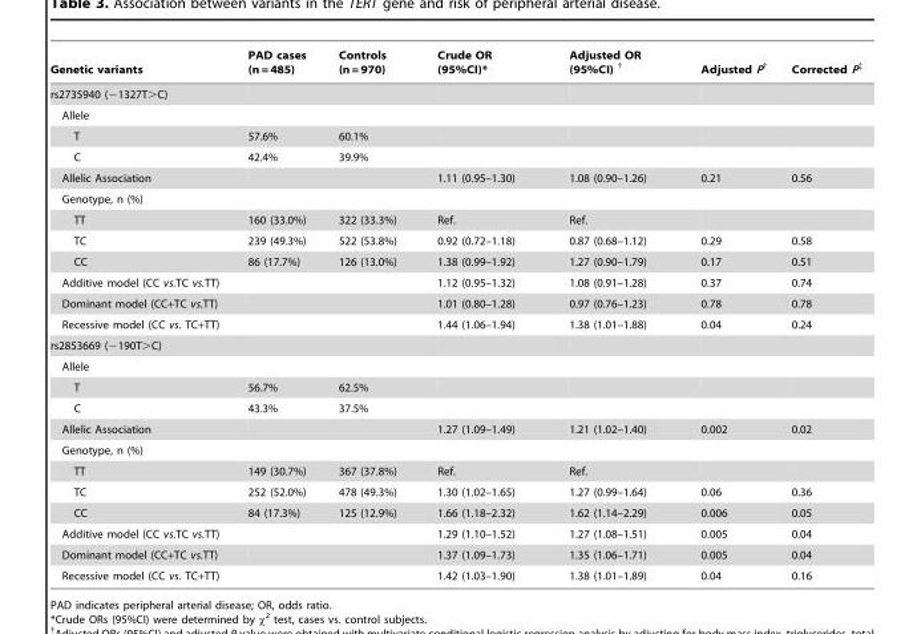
<table><thead><tr><td>Genetic variants</td><td>PAD cases (n = 485)</td><td>Controls (n = 970)</td><td>Crude OR (95%CI)*</td><td>Adjusted OR (95%CI) †</td><td>Adjusted P†</td><td>Corrected P‡</td></tr></thead><tbody><tr><td colspan="7">rs2735940 (−1327T&gt;C)</td></tr><tr><td colspan="7">Allele</td></tr><tr><td>T</td><td>57.6%</td><td>60.1%</td><td></td><td></td><td></td><td></td></tr><tr><td>C</td><td>42.4%</td><td>39.9%</td><td></td><td></td><td></td><td></td></tr><tr><td>Allelic Association</td><td></td><td></td><td>1.11 (0.95–1.30)</td><td>1.08 (0.90–1.26)</td><td>0.21</td><td>0.56</td></tr><tr><td colspan="7">Genotype, n (%)</td></tr><tr><td>TT</td><td>160 (33.0%)</td><td>322 (33.3%)</td><td>Ref.</td><td>Ref.</td><td></td><td></td></tr><tr><td>TC</td><td>239 (49.3%)</td><td>522 (53.8%)</td><td>0.92 (0.72–1.18)</td><td>0.87 (0.68–1.12)</td><td>0.29</td><td>0.58</td></tr><tr><td>CC</td><td>86 (17.7%)</td><td>126 (13.0%)</td><td>1.38 (0.99–1.92)</td><td>1.27 (0.90–1.79)</td><td>0.17</td><td>0.51</td></tr><tr><td>Additive model (CC vs.TC vs.TT)</td><td></td><td></td><td>1.12 (0.95–1.32)</td><td>1.08 (0.91–1.28)</td><td>0.37</td><td>0.74</td></tr><tr><td>Dominant model (CC+TC vs.TT)</td><td></td><td></td><td>1.01 (0.80–1.28)</td><td>0.97 (0.76–1.23)</td><td>0.78</td><td>0.78</td></tr><tr><td>Recessive model (CC vs. TC+TT)</td><td></td><td></td><td>1.44 (1.06–1.94)</td><td>1.38 (1.01–1.88)</td><td>0.04</td><td>0.24</td></tr><tr><td colspan="7">rs2853669 (−190T&gt;C)</td></tr><tr><td colspan="7">Allele</td></tr><tr><td>T</td><td>56.7%</td><td>62.5%</td><td></td><td></td><td></td><td></td></tr><tr><td>C</td><td>43.3%</td><td>37.5%</td><td></td><td></td><td></td><td></td></tr><tr><td>Allelic Association</td><td></td><td></td><td>1.27 (1.09–1.49)</td><td>1.21 (1.02–1.40)</td><td>0.002</td><td>0.02</td></tr><tr><td colspan="7">Genotype, n (%)</td></tr><tr><td>TT</td><td>149 (30.7%)</td><td>367 (37.8%)</td><td>Ref.</td><td>Ref.</td><td></td><td></td></tr><tr><td>TC</td><td>252 (52.0%)</td><td>478 (49.3%)</td><td>1.30 (1.02–1.65)</td><td>1.27 (0.99–1.64)</td><td>0.06</td><td>0.36</td></tr><tr><td>CC</td><td>84 (17.3%)</td><td>125 (12.9%)</td><td>1.66 (1.18–2.32)</td><td>1.62 (1.14–2.29)</td><td>0.006</td><td>0.05</td></tr><tr><td>Additive model (CC vs.TC vs.TT)</td><td></td><td></td><td>1.29 (1.10–1.52)</td><td>1.27 (1.08–1.51)</td><td>0.005</td><td>0.04</td></tr><tr><td>Dominant model (CC+TC vs.TT)</td><td></td><td></td><td>1.37 (1.09–1.73)</td><td>1.35 (1.06–1.71)</td><td>0.005</td><td>0.04</td></tr><tr><td>Recessive model (CC vs. TC+TT)</td><td></td><td></td><td>1.42 (1.03–1.90)</td><td>1.38 (1.01–1.89)</td><td>0.04</td><td>0.16</td></tr></tbody></table>